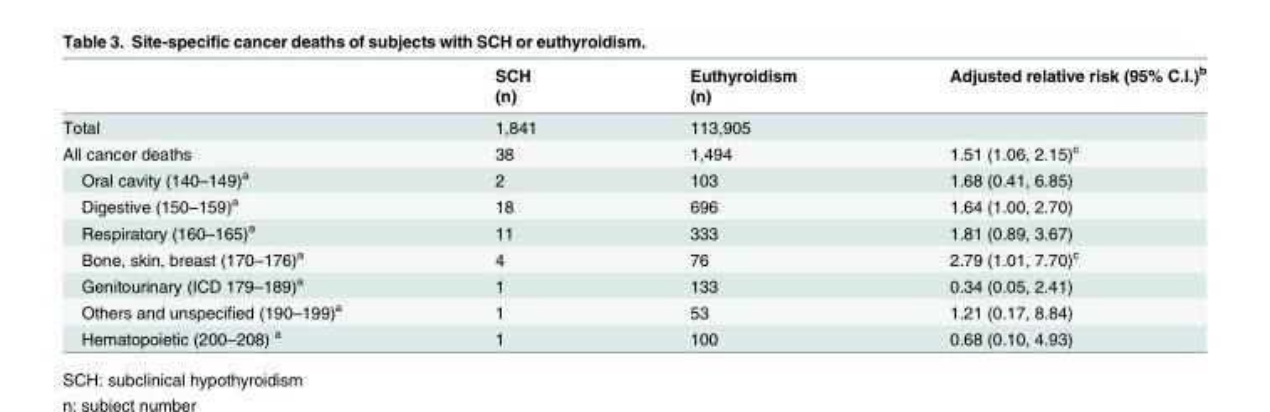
<table><thead><tr><td rowspan="2"></td><td rowspan="2">SCH (n)</td><td rowspan="2">Euthyroidism (n)</td><td rowspan="2">Adjusted relative risk (95% C.I.)<sup>b</sup></td></tr><tr></tr></thead><tbody><tr><td>Total</td><td>1,841</td><td>113,905</td><td></td></tr><tr><td>All cancer deaths</td><td>38</td><td>1,494</td><td>1.51 (1.06, 2.15)<sup>c</sup></td></tr><tr><td>Oral cavity (140–149)<sup>a</sup></td><td>2</td><td>103</td><td>1.68 (0.41, 6.85)</td></tr><tr><td>Digestive (150–159)<sup>a</sup></td><td>18</td><td>696</td><td>1.64 (1.00, 2.70)</td></tr><tr><td>Respiratory (160–165)<sup>a</sup></td><td>11</td><td>333</td><td>1.81 (0.89, 3.67)</td></tr><tr><td>Bone, skin, breast (170–176)<sup>a</sup></td><td>4</td><td>76</td><td>2.79 (1.01, 7.70)<sup>c</sup></td></tr><tr><td>Genitourinary (ICD 179–189)<sup>a</sup></td><td>1</td><td>133</td><td>0.34 (0.05, 2.41)</td></tr><tr><td>Others and unspecified (190–199)<sup>a</sup></td><td>1</td><td>53</td><td>1.21 (0.17, 8.84)</td></tr><tr><td>Hematopoietic (200–208) <sup>a</sup></td><td>1</td><td>100</td><td>0.68 (0.10, 4.93)</td></tr></tbody></table>